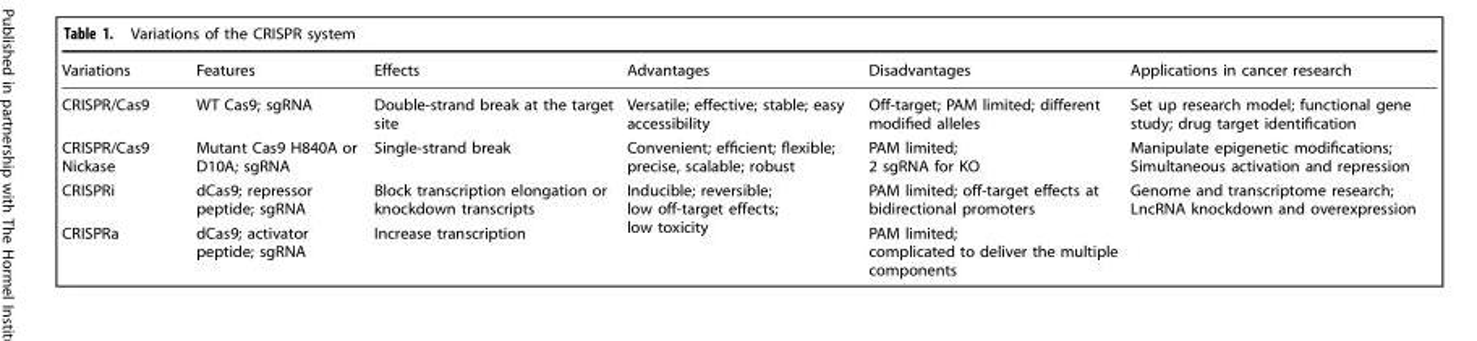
<table><thead><tr><td>Variations</td><td>Features</td><td>Effects</td><td>Advantages</td><td>Disadvantages</td><td>Applications in cancer research</td></tr></thead><tbody><tr><td>CRISPR/Cas9</td><td>WT Cas9; sgRNA</td><td>Double-strand break at the target site</td><td>Versatile; effective; stable; easy accessibility</td><td>Off-target; PAM limited; different modified alleles</td><td>Set up research model; functional gene study; drug target identification</td></tr><tr><td>CRISPR/Cas9 Nickase</td><td>Mutant Cas9 H840A or D10A; sgRNA</td><td>Single-strand break</td><td>Convenient; efficient; flexible; precise, scalable; robust</td><td>PAM limited; 2 sgRNA for KO</td><td>Manipulate epigenetic modifications; Simultaneous activation and repression</td></tr><tr><td>CRISPRi</td><td>dCas9; repressor peptide; sgRNA</td><td>Block transcription elongation or knockdown transcripts</td><td rowspan="2">Inducible; reversible; low off-target effects; low toxicity</td><td>PAM limited; off-target effects at bidirectional promoters</td><td rowspan="2">Genome and transcriptome research; LncRNA knockdown and overexpression</td></tr><tr><td>CRISPRa</td><td>dCas9; activator peptide; sgRNA</td><td>Increase transcription</td><td>PAM limited; complicated to deliver the multiple components</td></tr></tbody></table>